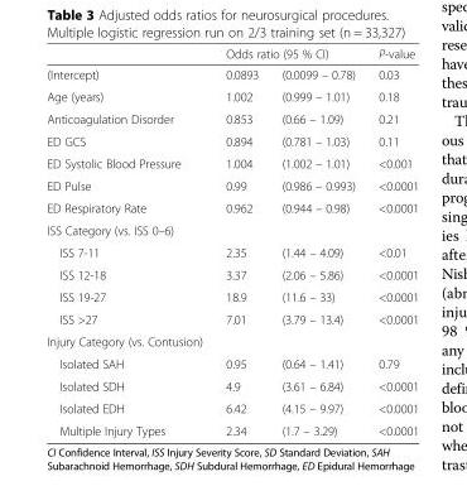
<table><thead><tr><td rowspan="2">(Intercept)</td><td colspan="2">Odds ratio (95 % CI)</td><td rowspan="2">P-value 0.03</td></tr><tr><td>0.0893</td><td>(0.0099 – 0.78)</td></tr></thead><tbody><tr><td>Age (years)</td><td>1.002</td><td>(0.999 – 1.01)</td><td>0.18</td></tr><tr><td>Anticoagulation Disorder</td><td>0.853</td><td>(0.66 – 1.09)</td><td>0.21</td></tr><tr><td>ED GCS</td><td>0.894</td><td>(0.781 – 1.03)</td><td>0.11</td></tr><tr><td>ED Systolic Blood Pressure</td><td>1.004</td><td>(1.002 – 1.01)</td><td>&lt;0.001</td></tr><tr><td>ED Pulse</td><td>0.99</td><td>(0.986 – 0.993)</td><td>&lt;0.0001</td></tr><tr><td>ED Respiratory Rate</td><td>0.962</td><td>(0.944 – 0.98)</td><td>&lt;0.0001</td></tr><tr><td colspan="4">ISS Category (vs. ISS 0–6)</td></tr><tr><td>ISS 7-11</td><td>2.35</td><td>(1.44 – 4.09)</td><td>&lt;0.01</td></tr><tr><td>ISS 12-18</td><td>3.37</td><td>(2.06 – 5.86)</td><td>&lt;0.0001</td></tr><tr><td>ISS 19-27</td><td>18.9</td><td>(11.6 – 33)</td><td>&lt;0.0001</td></tr><tr><td>ISS &gt;27</td><td>7.01</td><td>(3.79 – 13.4)</td><td>&lt;0.0001</td></tr><tr><td colspan="4">Injury Category (vs. Contusion)</td></tr><tr><td>Isolated SAH</td><td>0.95</td><td>(0.64 – 1.41)</td><td>0.79</td></tr><tr><td>Isolated SDH</td><td>4.9</td><td>(3.61 – 6.84)</td><td>&lt;0.0001</td></tr><tr><td>Isolated EDH</td><td>6.42</td><td>(4.15 – 9.97)</td><td>&lt;0.0001</td></tr><tr><td>Multiple Injury Types</td><td>2.34</td><td>(1.7 – 3.29)</td><td>&lt;0.0001</td></tr></tbody></table>